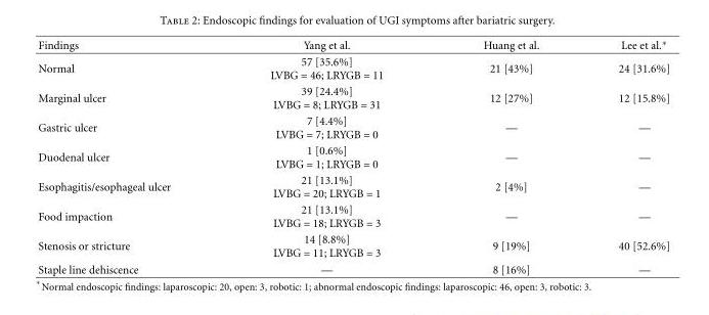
<table><thead><tr><td>Findings</td><td>Yang et al.</td><td>Huang et al.</td><td>Lee et al.∗</td></tr></thead><tbody><tr><td>Normal</td><td>57 [35.6%] LVBG = 46; LRYGB = 11</td><td>21 [43%]</td><td>24 [31.6%]</td></tr><tr><td>Marginal ulcer</td><td>39 [24.4%] LVBG = 8; LRYGB = 31</td><td>12 [27%]</td><td>12 [15.8%]</td></tr><tr><td>Gastric ulcer</td><td>7 [4.4%] LVBG = 7; LRYGB = 0</td><td>—</td><td>—</td></tr><tr><td>Duodenal ulcer</td><td>1 [0.6%] LVBG = 1; LRYGB = 0</td><td>—</td><td>—</td></tr><tr><td>Esophagitis/esophageal ulcer</td><td>21 [13.1%] LVBG = 20; LRYGB = 1</td><td>2 [4%]</td><td>—</td></tr><tr><td>Food impaction</td><td>21 [13.1%] LVBG = 18; LRYGB = 3</td><td>—</td><td>—</td></tr><tr><td>Stenosis or stricture</td><td>14 [8.8%] LVBG = 11; LRYGB = 3</td><td>9 [19%]</td><td>40 [52.6%]</td></tr><tr><td>Staple line dehiscence</td><td>—</td><td>8 [16%]</td><td>—</td></tr></tbody></table>